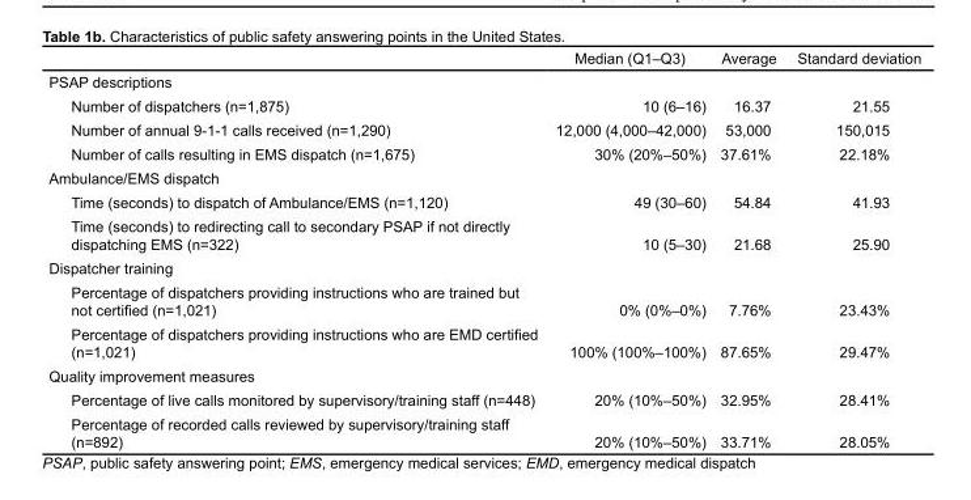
<table><thead><tr><td></td><td>Median (Q1–Q3)</td><td>Average</td><td>Standard deviation</td></tr></thead><tbody><tr><td colspan="4">PSAP descriptions</td></tr><tr><td>Number of dispatchers (n=1,875)</td><td>10 (6–16)</td><td>16.37</td><td>21.55</td></tr><tr><td>Number of annual 9-1-1 calls received (n=1,290)</td><td>12,000 (4,000–42,000)</td><td>53,000</td><td>150,015</td></tr><tr><td>Number of calls resulting in EMS dispatch (n=1,675)</td><td>30% (20%–50%)</td><td>37.61%</td><td>22.18%</td></tr><tr><td colspan="4">Ambulance/EMS dispatch</td></tr><tr><td>Time (seconds) to dispatch of Ambulance/EMS (n=1,120)</td><td>49 (30–60)</td><td>54.84</td><td>41.93</td></tr><tr><td>Time (seconds) to redirecting call to secondary PSAP if not directly dispatching EMS (n=322)</td><td>10 (5–30)</td><td>21.68</td><td>25.90</td></tr><tr><td colspan="4">Dispatcher training</td></tr><tr><td>Percentage of dispatchers providing instructions who are trained but not certified (n=1,021)</td><td>0% (0%–0%)</td><td>7.76%</td><td>23.43%</td></tr><tr><td>Percentage of dispatchers providing instructions who are EMD certified (n=1,021)</td><td>100% (100%–100%)</td><td>87.65%</td><td>29.47%</td></tr><tr><td colspan="4">Quality improvement measures</td></tr><tr><td>Percentage of live calls monitored by supervisory/training staff (n=448)</td><td>20% (10%–50%)</td><td>32.95%</td><td>28.41%</td></tr><tr><td>Percentage of recorded calls reviewed by supervisory/training staff (n=892)</td><td>20% (10%–50%)</td><td>33.71%</td><td>28.05%</td></tr></tbody></table>